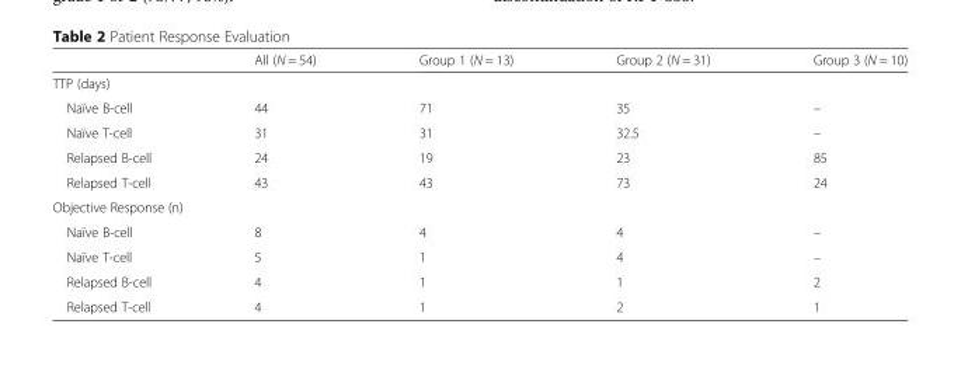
<table><thead><tr><td></td><td>All (N = 54)</td><td>Group 1 (N = 13)</td><td>Group 2 (N = 31)</td><td>Group 3 (N = 10)</td></tr></thead><tbody><tr><td colspan="5">TTP (days)</td></tr><tr><td>Naïve B-cell</td><td>44</td><td>71</td><td>35</td><td>–</td></tr><tr><td>Naïve T-cell</td><td>31</td><td>31</td><td>32.5</td><td>–</td></tr><tr><td>Relapsed B-cell</td><td>24</td><td>19</td><td>23</td><td>85</td></tr><tr><td>Relapsed T-cell</td><td>43</td><td>43</td><td>73</td><td>24</td></tr><tr><td colspan="5">Objective Response (n)</td></tr><tr><td>Naïve B-cell</td><td>8</td><td>4</td><td>4</td><td>–</td></tr><tr><td>Naïve T-cell</td><td>5</td><td>1</td><td>4</td><td>–</td></tr><tr><td>Relapsed B-cell</td><td>4</td><td>1</td><td>1</td><td>2</td></tr><tr><td>Relapsed T-cell</td><td>4</td><td>1</td><td>2</td><td>1</td></tr></tbody></table>